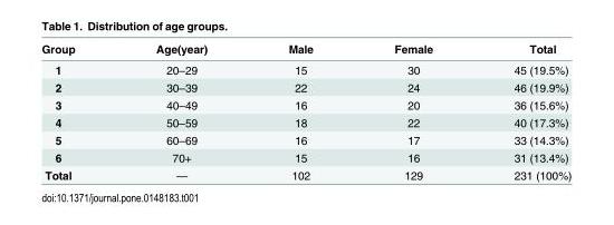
<table><thead><tr><td>Group</td><td>Age(year)</td><td>Male</td><td>Female</td><td>Total</td></tr></thead><tbody><tr><td>1</td><td>20–29</td><td>15</td><td>30</td><td>45 (19.5%)</td></tr><tr><td>2</td><td>30–39</td><td>22</td><td>24</td><td>46 (19.9%)</td></tr><tr><td>3</td><td>40–49</td><td>16</td><td>20</td><td>36 (15.6%)</td></tr><tr><td>4</td><td>50–59</td><td>18</td><td>22</td><td>40 (17.3%)</td></tr><tr><td>5</td><td>60–69</td><td>16</td><td>17</td><td>33 (14.3%)</td></tr><tr><td>6</td><td>70+</td><td>15</td><td>16</td><td>31 (13.4%)</td></tr><tr><td>Total</td><td>—</td><td>102</td><td>129</td><td>231 (100%)</td></tr></tbody></table>